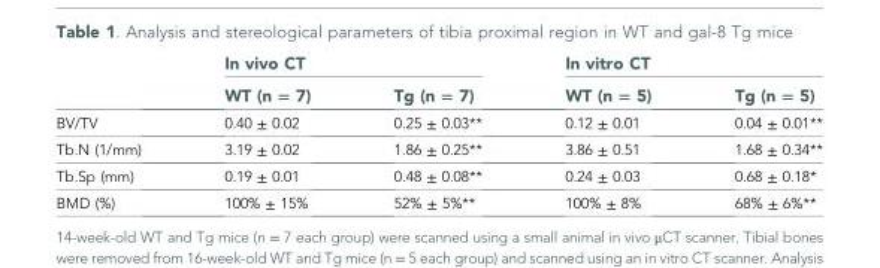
<table><thead><tr><td rowspan="2"></td><td colspan="2">In vivo CT</td><td colspan="2">In vitro CT</td></tr><tr><td>WT (n = 7)</td><td>Tg (n = 7)</td><td>WT (n = 5)</td><td>Tg (n = 5)</td></tr></thead><tbody><tr><td>BV/TV</td><td>0.40 ± 0.02</td><td>0.25 ± 0.03**</td><td>0.12 ± 0.01</td><td>0.04 ± 0.01**</td></tr><tr><td>Tb.N (1/mm)</td><td>3.19 ± 0.02</td><td>1.86 ± 0.25**</td><td>3.86 ± 0.51</td><td>1.68 ± 0.34**</td></tr><tr><td>Tb.Sp (mm)</td><td>0.19 ± 0.01</td><td>0.48 ± 0.08**</td><td>0.24 ± 0.03</td><td>0.68 ± 0.18*</td></tr><tr><td>BMD (%)</td><td>100% ± 15%</td><td>52% ± 5%**</td><td>100% ± 8%</td><td>68% ± 6%**</td></tr></tbody></table>